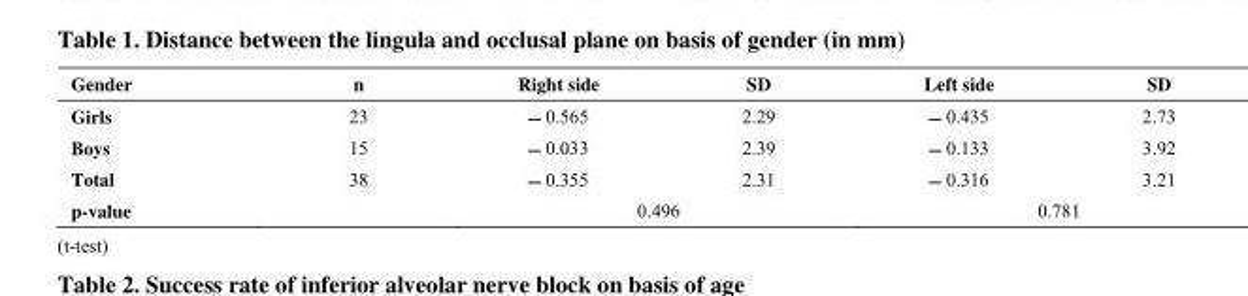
<table><tbody><tr><td>Gender</td><td>n</td><td>Right side</td><td>SD</td><td>Left side</td><td>SD</td></tr><tr><td>Girls</td><td>23</td><td>- 0.565</td><td>2.29</td><td>- 0.435</td><td>2.73</td></tr><tr><td>Boys</td><td>15</td><td>- 0.033</td><td>2.39</td><td>- 0.133</td><td>3.92</td></tr><tr><td>Total</td><td>38</td><td>- 0.355</td><td>2.31</td><td>- 0.316</td><td>3.21</td></tr><tr><td>p-value</td><td></td><td></td><td>0.496</td><td>0.781</td><td></td></tr></tbody></table>